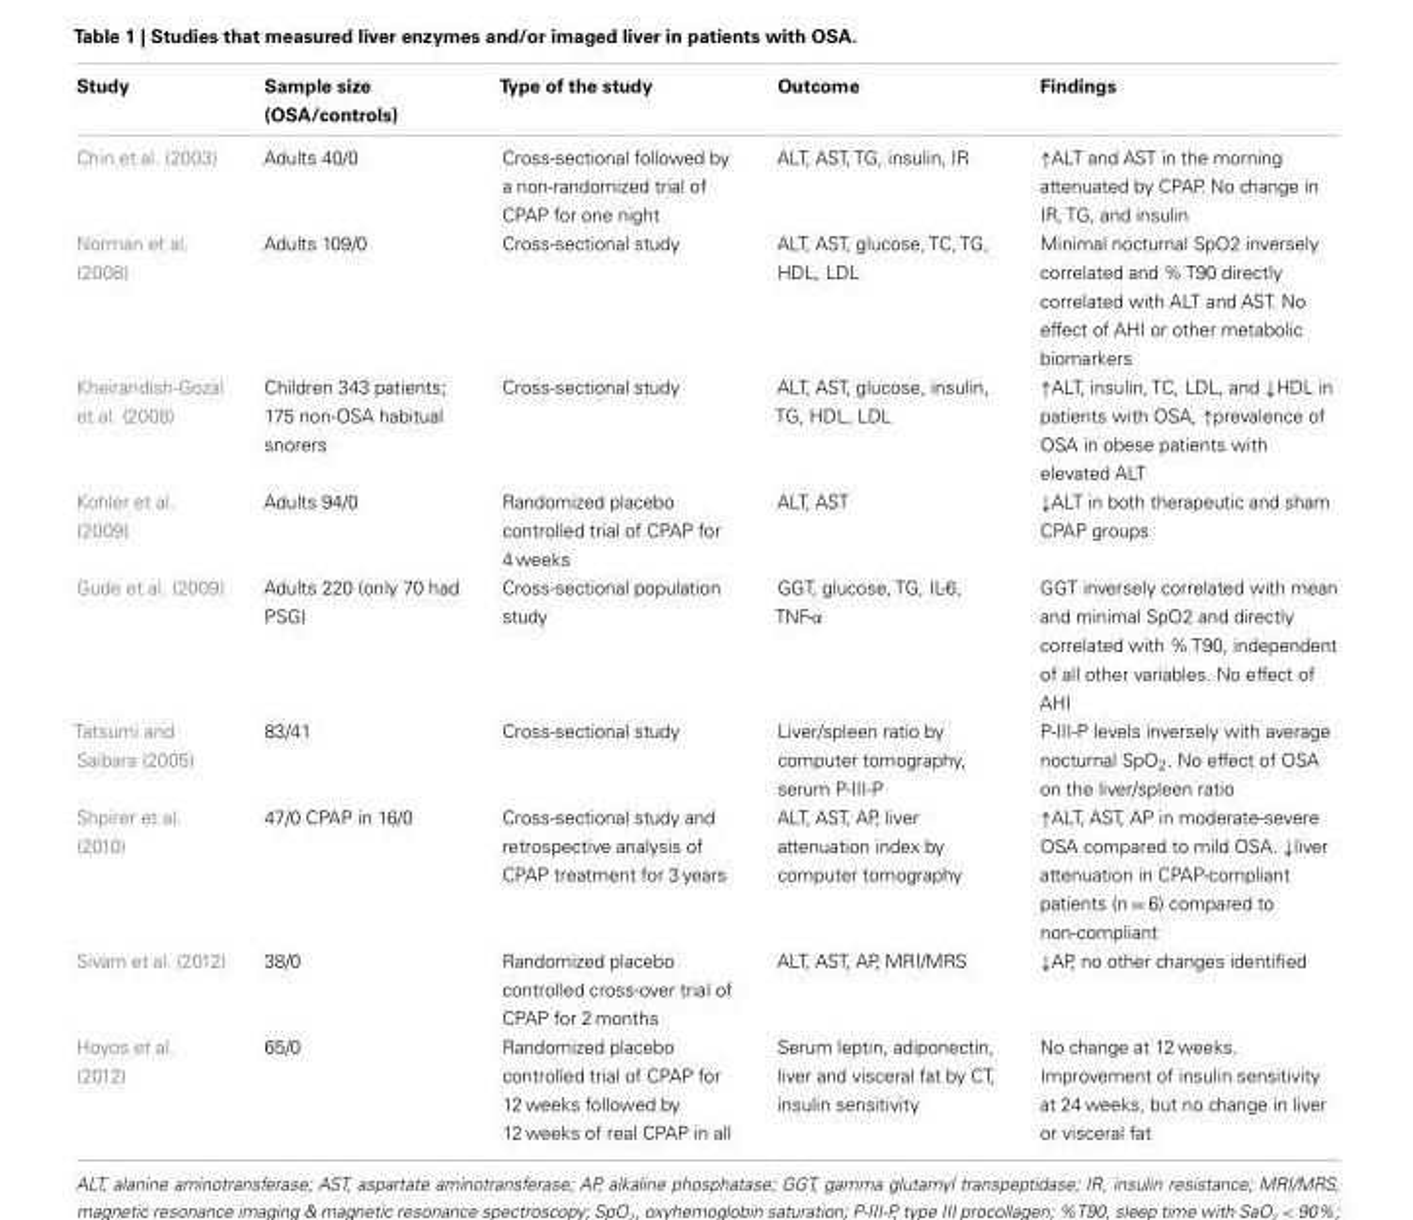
<table><thead><tr><td>Study</td><td>Sample size (OSA/controls)</td><td>Type of the study</td><td>Outcome</td><td>Findings</td></tr></thead><tbody><tr><td>Chin et al. (2003)</td><td>Adults 40/0</td><td>Cross-sectional followed by a non-randomized trial of CPAP for one night</td><td>ALT, AST, TG, insulin, IR</td><td>↑ALT and AST in the morning attenuated by CPAP. No change in IR, TG, and insulin</td></tr><tr><td>Norman et al. (2008)</td><td>Adults 109/0</td><td>Cross-sectional study</td><td>ALT, AST, glucose, TC, TG, HDL, LDL</td><td>Minimal nocturnal SpO2 inversely correlated and % T90 directly correlated with ALT and AST. No effect of AHI or other metabolic biomarkers</td></tr><tr><td>Kheirandish-Gozal et al. (2008)</td><td>Children 343 patients; 175 non-OSA habitual snorers</td><td>Cross-sectional study</td><td>ALT, AST, glucose, insulin, TG, HDL, LDL</td><td>↑ALT, insulin, TC, LDL, and ↓HDL in patients with OSA, ↑prevalence of OSA in obese patients with elevated ALT</td></tr><tr><td>Kohler et al. (2009)</td><td>Adults 94/0</td><td>Randomized placebo controlled trial of CPAP for 4 weeks</td><td>ALT, AST</td><td>↓ALT in both therapeutic and sham CPAP groups</td></tr><tr><td>Gude et al. (2009)</td><td>Adults 220 (only 70 had PSG)</td><td>Cross-sectional population study</td><td>GGT, glucose, TG, IL-6, TNF-α</td><td>GGT inversely correlated with mean and minimal SpO2 and directly correlated with % T90, independent of all other variables. No effect of AHI</td></tr><tr><td>Tatsumi and Saibara (2005)</td><td>83/41</td><td>Cross-sectional study</td><td>Liver/spleen ratio by computer tomography, serum P-III-P</td><td>P-III-P levels inversely with average nocturnal SpO<sub>2</sub>. No effect of OSA on the liver/spleen ratio</td></tr><tr><td>Shpirer et al. (2010)</td><td>47/0 CPAP in 16/0</td><td>Cross-sectional study and retrospective analysis of CPAP treatment for 3 years</td><td>ALT, AST, AP, liver attenuation index by computer tomography</td><td>↑ALT, AST, AP in moderate-severe OSA compared to mild OSA. ↓liver attenuation in CPAP-compliant patients (n = 6) compared to non-compliant</td></tr><tr><td>Sivam et al. (2012)</td><td>38/0</td><td>Randomized placebo controlled cross-over trial of CPAP for 2 months</td><td>ALT, AST, AP, MRI/MRS</td><td>↓AP, no other changes identified</td></tr><tr><td>Hoyos et al. (2012)</td><td>65/0</td><td>Randomized placebo controlled trial of CPAP for 12 weeks followed by 12 weeks of real CPAP in all</td><td>Serum leptin, adiponectin, liver and visceral fat by CT, insulin sensitivity</td><td>No change at 12 weeks. Improvement of insulin sensitivity at 24 weeks, but no change in liver or visceral fat</td></tr></tbody></table>